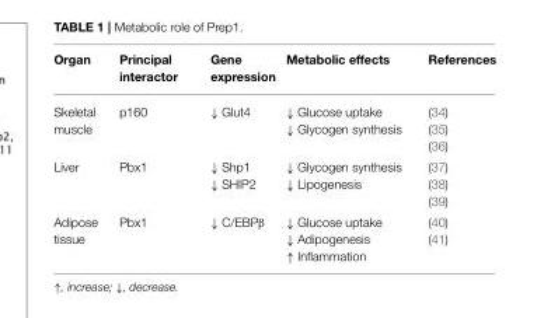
<table><thead><tr><td>Organ</td><td>Principal interactor</td><td>Gene expression</td><td>Metabolic effects</td><td>References</td></tr></thead><tbody><tr><td>Skeletal muscle</td><td>p160</td><td>↓ Glut4</td><td>↓ Glucose uptake ↓ Glycogen synthesis</td><td>(34) (35) (36)</td></tr><tr><td>Liver</td><td>Pbx1</td><td>↓ Shp1 ↓ SHIP2</td><td>↓ Glycogen synthesis ↓ Lipogenesis</td><td>(37) (38) (39)</td></tr><tr><td>Adipose tissue</td><td>Pbx1</td><td>↓ C/EBPβ</td><td>↓ Glucose uptake ↓ Adipogenesis ↑ Inflammation</td><td>(40) (41)</td></tr></tbody></table>